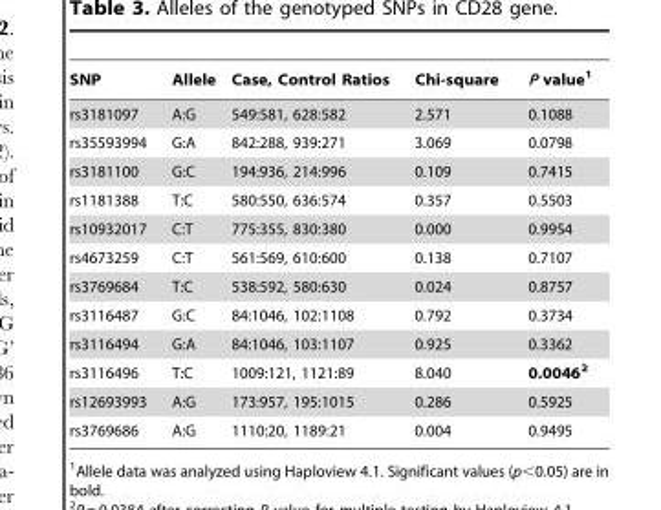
<table><thead><tr><td>SNP</td><td>Allele</td><td>Case, Control Ratios</td><td>Chi-square</td><td>P value<sup>1</sup></td></tr></thead><tbody><tr><td>rs3181097</td><td>A:G</td><td>549:581, 628:582</td><td>2.571</td><td>0.1088</td></tr><tr><td>rs35593994</td><td>G:A</td><td>842:288, 939:271</td><td>3.069</td><td>0.0798</td></tr><tr><td>rs3181100</td><td>G:C</td><td>194:936, 214:996</td><td>0.109</td><td>0.7415</td></tr><tr><td>rs1181388</td><td>T:C</td><td>580:550, 636:574</td><td>0.357</td><td>0.5503</td></tr><tr><td>rs10932017</td><td>C:T</td><td>775:355, 830:380</td><td>0.000</td><td>0.9954</td></tr><tr><td>rs4673259</td><td>C:T</td><td>561:569, 610:600</td><td>0.138</td><td>0.7107</td></tr><tr><td>rs3769684</td><td>T:C</td><td>538:592, 580:630</td><td>0.024</td><td>0.8757</td></tr><tr><td>rs3116487</td><td>G:C</td><td>84:1046, 102:1108</td><td>0.792</td><td>0.3734</td></tr><tr><td>rs3116494</td><td>G:A</td><td>84:1046, 103:1107</td><td>0.925</td><td>0.3362</td></tr><tr><td>rs3116496</td><td>T:C</td><td>1009:121, 1121:89</td><td>8.040</td><td>0.00462</td></tr><tr><td>rs12693993</td><td>A:G</td><td>173:957, 195:1015</td><td>0.286</td><td>0.5925</td></tr><tr><td>rs3769686</td><td>A:G</td><td>1110:20, 1189:21</td><td>0.004</td><td>0.9495</td></tr></tbody></table>